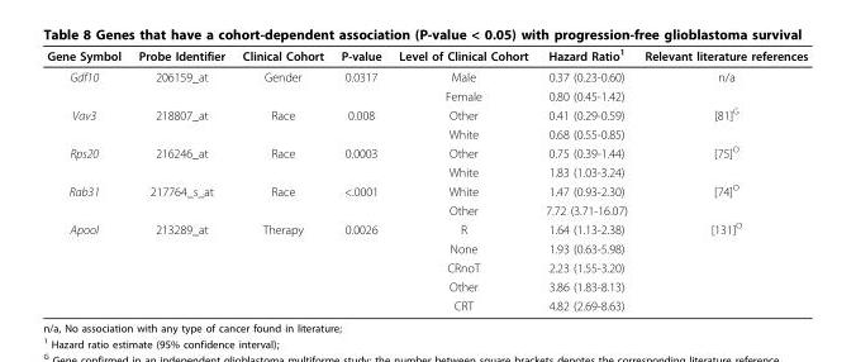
<table><thead><tr><td>Gene Symbol</td><td>Probe Identifier</td><td>Clinical Cohort</td><td>P-value</td><td>Level of Clinical Cohort</td><td>Hazard Ratio<sup>1</sup></td><td>Relevant literature references</td></tr></thead><tbody><tr><td rowspan="2">Gdf10</td><td>206159_at</td><td>Gender</td><td>0.0317</td><td>Male</td><td>0.37 (0.23-0.60)</td><td>n/a</td></tr><tr><td></td><td></td><td></td><td>Female</td><td>0.80 (0.45-1.42)</td><td></td></tr><tr><td rowspan="2">Vav3</td><td>218807_at</td><td>Race</td><td>0.008</td><td>Other</td><td>0.41 (0.29-0.59)</td><td>[81]<sup>G</sup></td></tr><tr><td></td><td></td><td></td><td>White</td><td>0.68 (0.55-0.85)</td><td></td></tr><tr><td rowspan="2">Rps20</td><td>216246_at</td><td>Race</td><td>0.0003</td><td>Other</td><td>0.75 (0.39-1.44)</td><td>[75]<sup>O</sup></td></tr><tr><td></td><td></td><td></td><td>White</td><td>1.83 (1.03-3.24)</td><td></td></tr><tr><td rowspan="2">Rab31</td><td>217764_s_at</td><td>Race</td><td>&lt;.0001</td><td>White</td><td>1.47 (0.93-2.30)</td><td>[74]<sup>O</sup></td></tr><tr><td></td><td></td><td></td><td>Other</td><td>7.72 (3.71-16.07)</td><td></td></tr><tr><td rowspan="5">Apool</td><td>213289_at</td><td>Therapy</td><td>0.0026</td><td>R</td><td>1.64 (1.13-2.38)</td><td>[131]<sup>O</sup></td></tr><tr><td></td><td></td><td></td><td>None</td><td>1.93 (0.63-5.98)</td><td></td></tr><tr><td></td><td></td><td></td><td>CRnoT</td><td>2.23 (1.55-3.20)</td><td></td></tr><tr><td></td><td></td><td></td><td>Other</td><td>3.86 (1.83-8.13)</td><td></td></tr><tr><td></td><td></td><td></td><td>CRT</td><td>4.82 (2.69-8.63)</td><td></td></tr></tbody></table>